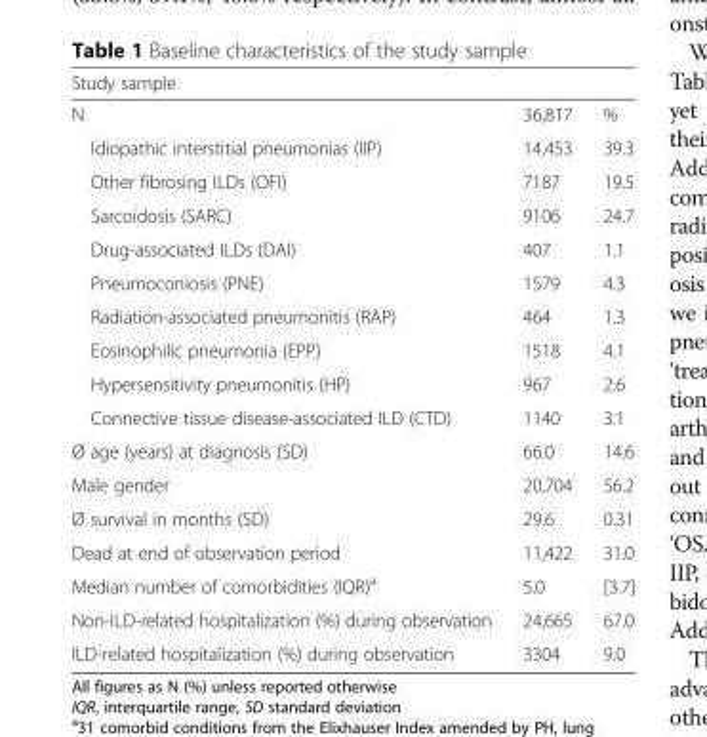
<table><thead><tr><td colspan="3">Study sample</td></tr><tr><td>N</td><td>36,817</td><td>%</td></tr></thead><tbody><tr><td>Idiopathic interstitial pneumonias (IIP)</td><td>14,453</td><td>39.3</td></tr><tr><td>Other fibrosing ILDs (OFI)</td><td>7187</td><td>19.5</td></tr><tr><td>Sarcoidosis (SARC)</td><td>9106</td><td>24.7</td></tr><tr><td>Drug-associated ILDs (DAI)</td><td>407</td><td>1.1</td></tr><tr><td>Pneumoconiosis (PNE)</td><td>1579</td><td>4.3</td></tr><tr><td>Radiation-associated pneumonitis (RAP)</td><td>464</td><td>1.3</td></tr><tr><td>Eosinophilic pneumonia (EPP)</td><td>1518</td><td>4.1</td></tr><tr><td>Hypersensitivity pneumonitis (HP)</td><td>967</td><td>2.6</td></tr><tr><td>Connective tissue disease-associated ILD (CTD)</td><td>1140</td><td>3.1</td></tr><tr><td>Ø age (years) at diagnosis (SD)</td><td>66.0</td><td>14.6</td></tr><tr><td>Male gender</td><td>20,704</td><td>56.2</td></tr><tr><td>Ø survival in months (SD)</td><td>29.6</td><td>0.31</td></tr><tr><td>Dead at end of observation period</td><td>11,422</td><td>31.0</td></tr><tr><td>Median number of comorbidities (IQR)<sup>a</sup></td><td>5.0</td><td>[3.7]</td></tr><tr><td>Non-ILD-related hospitalization (%) during observation</td><td>24,665</td><td>67.0</td></tr><tr><td>ILD-related hospitalization (%) during observation</td><td>3304</td><td>9.0</td></tr></tbody></table>